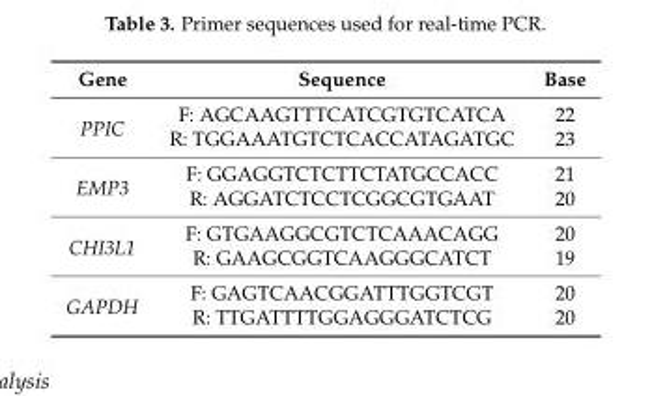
<table><thead><tr><td>Gene</td><td>Sequence</td><td>Base</td></tr></thead><tbody><tr><td rowspan="2">PPIC</td><td>F: AGCAAGTTTCATCGTGTCATCA</td><td>22</td></tr><tr><td>R: TGGAAATGTCTCACCATAGATGC</td><td>23</td></tr><tr><td rowspan="2">EMP3</td><td>F: GGAGGTCTCTTCTATGCCACC</td><td>21</td></tr><tr><td>R: AGGATCTCCTCGGCGTGAAT</td><td>20</td></tr><tr><td rowspan="2">CHI3L1</td><td>F: GTGAAGGCGTCTCAAACAGG</td><td>20</td></tr><tr><td>R: GAAGCGGTCAAGGGCATCT</td><td>19</td></tr><tr><td rowspan="2">GAPDH</td><td>F: GAGTCAACGGATTTGGTCGT</td><td>20</td></tr><tr><td>R: TTGATTTTGGAGGGATCTCG</td><td>20</td></tr></tbody></table>